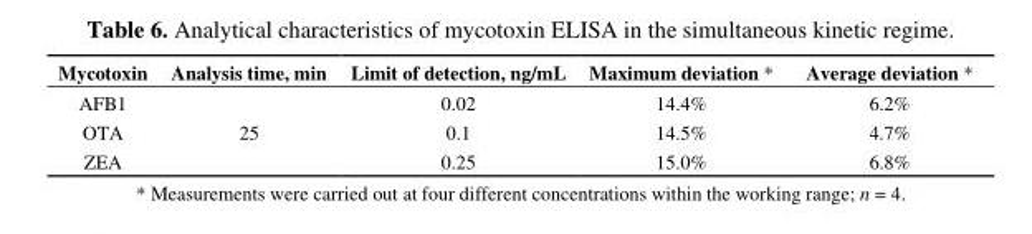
<table><thead><tr><td>Mycotoxin</td><td>Analysis time, min</td><td>Limit of detection, ng/mL</td><td>Maximum deviation *</td><td>Average deviation *</td></tr></thead><tbody><tr><td>AFB1</td><td rowspan="3">25</td><td>0.02</td><td>14.4%</td><td>6.2%</td></tr><tr><td>OTA</td><td>0.1</td><td>14.5%</td><td>4.7%</td></tr><tr><td>ZEA</td><td>0.25</td><td>15.0%</td><td>6.8%</td></tr></tbody></table>